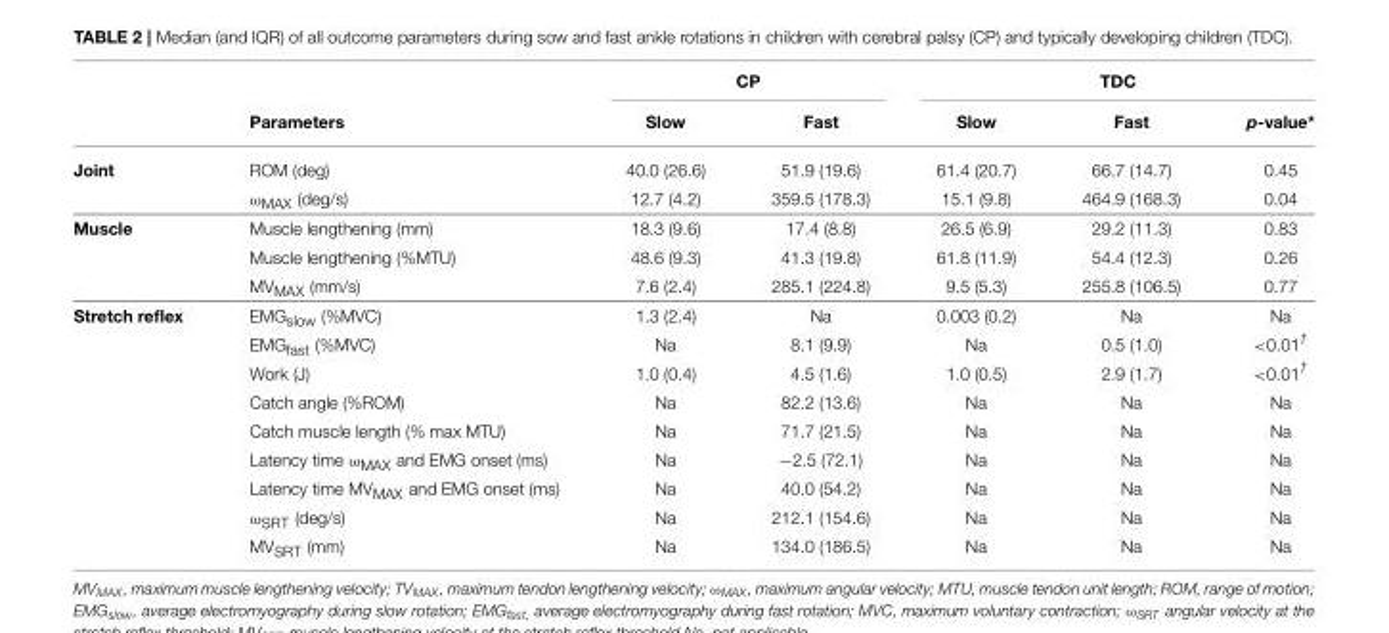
<table><thead><tr><td rowspan="2"></td><td rowspan="2">Parameters</td><td colspan="2">CP</td><td colspan="3">TDC</td></tr><tr><td>Slow</td><td>Fast</td><td>Slow</td><td>Fast</td><td>p-value*</td></tr></thead><tbody><tr><td rowspan="2">Joint</td><td>ROM (deg)</td><td>40.0 (26.6)</td><td>51.9 (19.6)</td><td>61.4 (20.7)</td><td>66.7 (14.7)</td><td>0.45</td></tr><tr><td>ω<sub>MAX</sub> (deg/s)</td><td>12.7 (4.2)</td><td>359.5 (178.3)</td><td>15.1 (9.8)</td><td>464.9 (168.3)</td><td>0.04</td></tr><tr><td rowspan="3">Muscle</td><td>Muscle lengthening (mm)</td><td>18.3 (9.6)</td><td>17.4 (8.8)</td><td>26.5 (6.9)</td><td>29.2 (11.3)</td><td>0.83</td></tr><tr><td>Muscle lengthening (%MTU)</td><td>48.6 (9.3)</td><td>41.3 (19.8)</td><td>61.8 (11.9)</td><td>54.4 (12.3)</td><td>0.26</td></tr><tr><td>MV<sub>MAX</sub> (mm/s)</td><td>7.6 (2.4)</td><td>285.1 (224.8)</td><td>9.5 (5.3)</td><td>255.8 (106.5)</td><td>0.77</td></tr><tr><td rowspan="9">Stretch reflex</td><td>EMG<sub>slow</sub> (%MVC)</td><td>1.3 (2.4)</td><td>Na</td><td>0.003 (0.2)</td><td>Na</td><td>Na</td></tr><tr><td>EMG<sub>fast</sub> (%MVC)</td><td>Na</td><td>8.1 (9.9)</td><td>Na</td><td>0.5 (1.0)</td><td>&lt;0.01<sup>†</sup></td></tr><tr><td>Work (J)</td><td>1.0 (0.4)</td><td>4.5 (1.6)</td><td>1.0 (0.5)</td><td>2.9 (1.7)</td><td>&lt;0.01<sup>†</sup></td></tr><tr><td>Catch angle (%ROM)</td><td>Na</td><td>82.2 (13.6)</td><td>Na</td><td>Na</td><td>Na</td></tr><tr><td>Catch muscle length (% max MTU)</td><td>Na</td><td>71.7 (21.5)</td><td>Na</td><td>Na</td><td>Na</td></tr><tr><td>Latency time ω<sub>MAX</sub> and EMG onset (ms)</td><td>Na</td><td>−2.5 (72.1)</td><td>Na</td><td>Na</td><td>Na</td></tr><tr><td>Latency time MV<sub>MAX</sub> and EMG onset (ms)</td><td>Na</td><td>40.0 (54.2)</td><td>Na</td><td>Na</td><td>Na</td></tr><tr><td>ω<sub>SRT</sub> (deg/s)</td><td>Na</td><td>212.1 (154.6)</td><td>Na</td><td>Na</td><td>Na</td></tr><tr><td>MV<sub>SRT</sub> (mm)</td><td>Na</td><td>134.0 (186.5)</td><td>Na</td><td>Na</td><td>Na</td></tr></tbody></table>